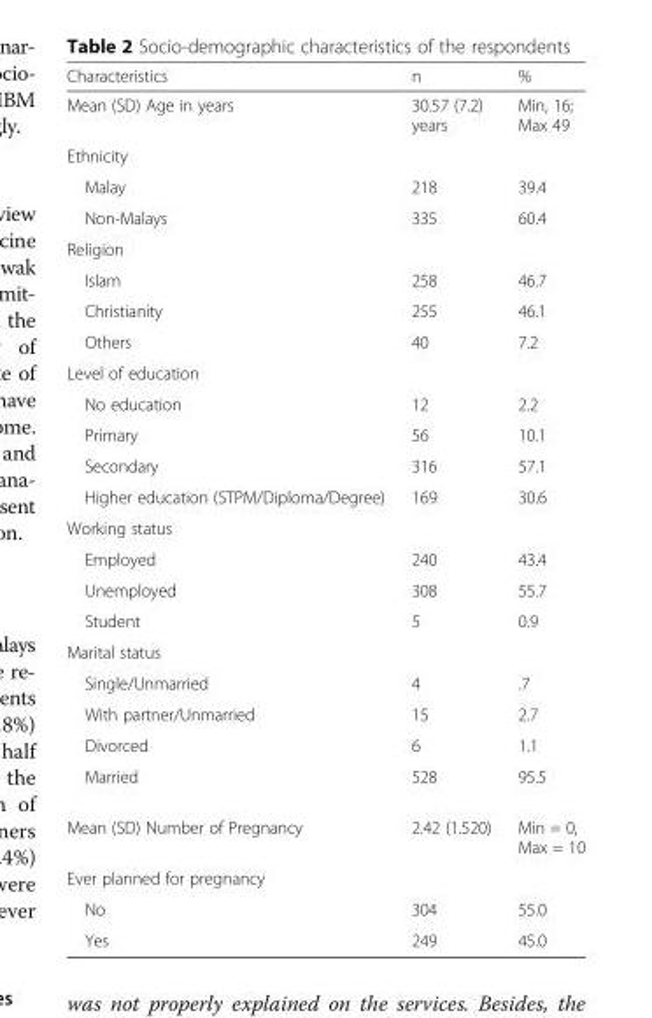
<table><thead><tr><td>Characteristics</td><td>n</td><td>%</td></tr></thead><tbody><tr><td>Mean (SD) Age in years</td><td>30.57 (7.2) years</td><td>Min, 16; Max 49</td></tr><tr><td colspan="3">Ethnicity</td></tr><tr><td>Malay</td><td>218</td><td>39.4</td></tr><tr><td>Non-Malays</td><td>335</td><td>60.4</td></tr><tr><td colspan="3">Religion</td></tr><tr><td>Islam</td><td>258</td><td>46.7</td></tr><tr><td>Christianity</td><td>255</td><td>46.1</td></tr><tr><td>Others</td><td>40</td><td>7.2</td></tr><tr><td colspan="3">Level of education</td></tr><tr><td>No education</td><td>12</td><td>2.2</td></tr><tr><td>Primary</td><td>56</td><td>10.1</td></tr><tr><td>Secondary</td><td>316</td><td>57.1</td></tr><tr><td>Higher education (STPM/Diploma/Degree)</td><td>169</td><td>30.6</td></tr><tr><td colspan="3">Working status</td></tr><tr><td>Employed</td><td>240</td><td>43.4</td></tr><tr><td>Unemployed</td><td>308</td><td>55.7</td></tr><tr><td>Student</td><td>5</td><td>0.9</td></tr><tr><td colspan="3">Marital status</td></tr><tr><td>Single/Unmarried</td><td>4</td><td>.7</td></tr><tr><td>With partner/Unmarried</td><td>15</td><td>2.7</td></tr><tr><td>Divorced</td><td>6</td><td>1.1</td></tr><tr><td>Married</td><td>528</td><td>95.5</td></tr><tr><td>Mean (SD) Number of Pregnancy</td><td>2.42 (1.520)</td><td>Min = 0, Max = 10</td></tr><tr><td colspan="3">Ever planned for pregnancy</td></tr><tr><td>No</td><td>304</td><td>55.0</td></tr><tr><td>Yes</td><td>249</td><td>45.0</td></tr></tbody></table>